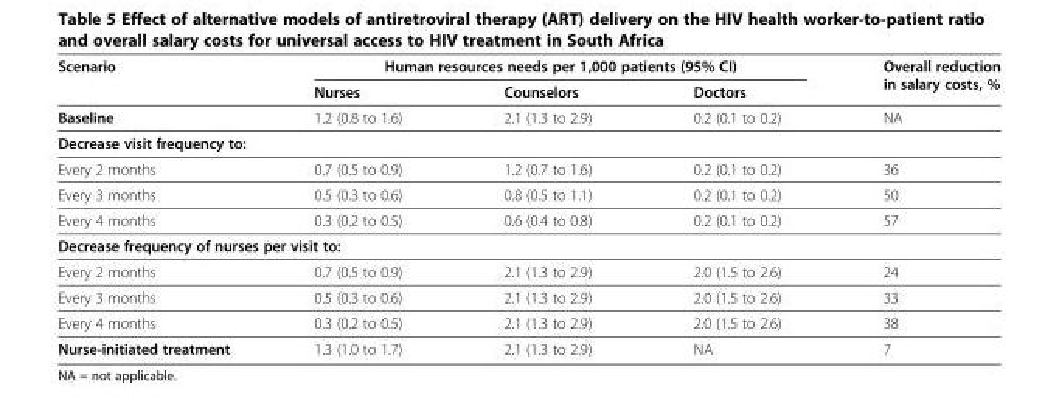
<table><thead><tr><td rowspan="2">Scenario</td><td colspan="3">Human resources needs per 1,000 patients (95% CI)</td><td rowspan="2">Overall reduction in salary costs, %</td></tr><tr><td>Nurses</td><td>Counselors</td><td>Doctors</td></tr></thead><tbody><tr><td>Baseline</td><td>1.2 (0.8 to 1.6)</td><td>2.1 (1.3 to 2.9)</td><td>0.2 (0.1 to 0.2)</td><td>NA</td></tr><tr><td colspan="5">Decrease visit frequency to:</td></tr><tr><td>Every 2 months</td><td>0.7 (0.5 to 0.9)</td><td>1.2 (0.7 to 1.6)</td><td>0.2 (0.1 to 0.2)</td><td>36</td></tr><tr><td>Every 3 months</td><td>0.5 (0.3 to 0.6)</td><td>0.8 (0.5 to 1.1)</td><td>0.2 (0.1 to 0.2)</td><td>50</td></tr><tr><td>Every 4 months</td><td>0.3 (0.2 to 0.5)</td><td>0.6 (0.4 to 0.8)</td><td>0.2 (0.1 to 0.2)</td><td>57</td></tr><tr><td colspan="5">Decrease frequency of nurses per visit to:</td></tr><tr><td>Every 2 months</td><td>0.7 (0.5 to 0.9)</td><td>2.1 (1.3 to 2.9)</td><td>2.0 (1.5 to 2.6)</td><td>24</td></tr><tr><td>Every 3 months</td><td>0.5 (0.3 to 0.6)</td><td>2.1 (1.3 to 2.9)</td><td>2.0 (1.5 to 2.6)</td><td>33</td></tr><tr><td>Every 4 months</td><td>0.3 (0.2 to 0.5)</td><td>2.1 (1.3 to 2.9)</td><td>2.0 (1.5 to 2.6)</td><td>38</td></tr><tr><td>Nurse-initiated treatment</td><td>1.3 (1.0 to 1.7)</td><td>2.1 (1.3 to 2.9)</td><td>NA</td><td>7</td></tr></tbody></table>